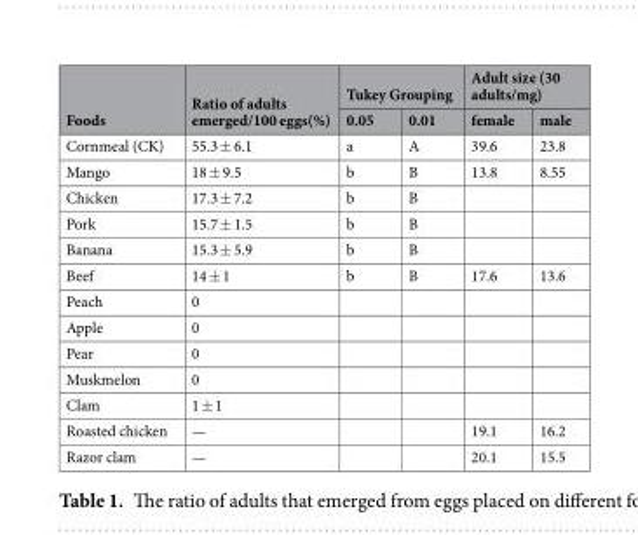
<table><thead><tr><td rowspan="2">Foods</td><td rowspan="2">Ratio of adults emerged/100 eggs(%)</td><td colspan="2">Tukey Grouping</td><td colspan="2">Adult size (30 adults/mg)</td></tr><tr><td>0.05</td><td>0.01</td><td>female</td><td>male</td></tr></thead><tbody><tr><td>Cornmeal (CK)</td><td>55.3 ± 6.1</td><td>a</td><td>A</td><td>39.6</td><td>23.8</td></tr><tr><td>Mango</td><td>18 ± 9.5</td><td>b</td><td>B</td><td>13.8</td><td>8.55</td></tr><tr><td>Chicken</td><td>17.3 ± 7.2</td><td>b</td><td>B</td><td></td><td></td></tr><tr><td>Pork</td><td>15.7 ± 1.5</td><td>b</td><td>B</td><td></td><td></td></tr><tr><td>Banana</td><td>15.3 ± 5.9</td><td>b</td><td>B</td><td></td><td></td></tr><tr><td>Beef</td><td>14 ± 1</td><td>b</td><td>B</td><td>17.6</td><td>13.6</td></tr><tr><td>Peach</td><td>0</td><td></td><td></td><td></td><td></td></tr><tr><td>Apple</td><td>0</td><td></td><td></td><td></td><td></td></tr><tr><td>Pear</td><td>0</td><td></td><td></td><td></td><td></td></tr><tr><td>Muskmelon</td><td>0</td><td></td><td></td><td></td><td></td></tr><tr><td>Clam</td><td>1 ± 1</td><td></td><td></td><td></td><td></td></tr><tr><td>Roasted chicken</td><td>—</td><td></td><td></td><td>19.1</td><td>16.2</td></tr><tr><td>Razor clam</td><td>—</td><td></td><td></td><td>20.1</td><td>15.5</td></tr></tbody></table>